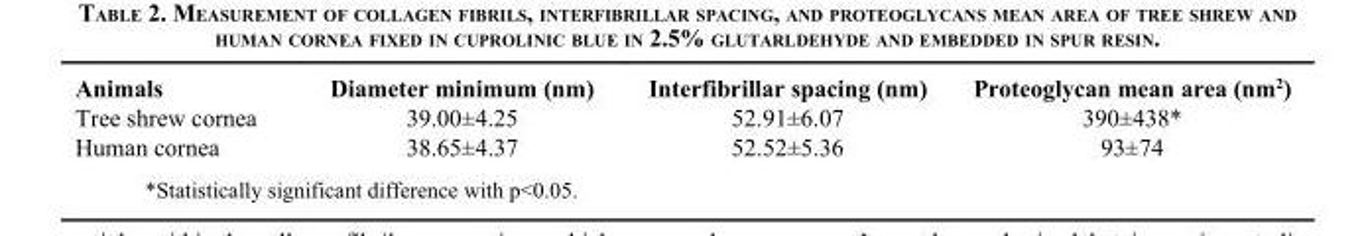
<table><thead><tr><td>Animals</td><td>Diameter minimum (nm)</td><td>Interfibrillar spacing (nm)</td><td>Proteoglycan mean area (nm<sup>2</sup>)</td></tr></thead><tbody><tr><td>Tree shrew cornea</td><td>39.00±4.25</td><td>52.91±6.07</td><td>390±438*</td></tr><tr><td>Human cornea</td><td>38.65±4.37</td><td>52.52±5.36</td><td>93±74</td></tr></tbody></table>